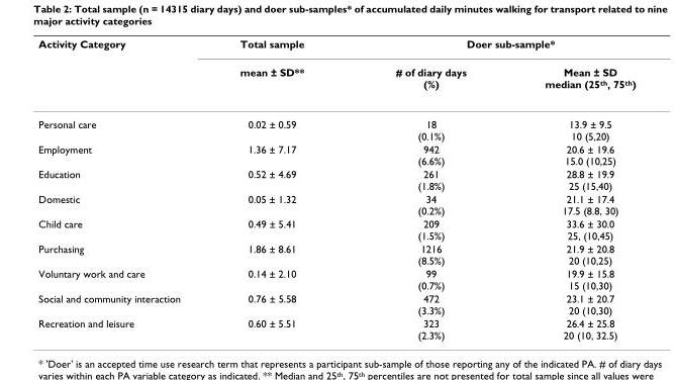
<table><thead><tr><td rowspan="2">Activity Category</td><td rowspan="2">Total sample mean ± SD**</td><td colspan="2">Doer sub-sample*</td></tr><tr><td># of diary days (%)</td><td>Mean ± SD median (25<sup>th</sup>, 75<sup>th</sup>)</td></tr></thead><tbody><tr><td>Personal care</td><td>0.02 ± 0.59</td><td>18 (0.1%)</td><td>13.9 ± 9.5 10 (5,20)</td></tr><tr><td>Employment</td><td>1.36 ± 7.17</td><td>942 (6.6%)</td><td>20.6 ± 19.6 15.0 (10,25)</td></tr><tr><td>Education</td><td>0.52 ± 4.69</td><td>261 (1.8%)</td><td>28.8 ± 19.9 25 (15,40)</td></tr><tr><td>Domestic</td><td>0.05 ± 1.32</td><td>34 (0.2%)</td><td>21.1 ± 17.4 17.5 (8.8, 30)</td></tr><tr><td>Child care</td><td>0.49 ± 5.41</td><td>209 (1.5%)</td><td>33.6 ± 30.0 25, (10,45)</td></tr><tr><td>Purchasing</td><td>1.86 ± 8.61</td><td>1216 (8.5%)</td><td>21.9 ± 20.8 20 (10,25)</td></tr><tr><td>Voluntary work and care</td><td>0.14 ± 2.10</td><td>99 (0.7%)</td><td>19.9 ± 15.8 15 (10,30)</td></tr><tr><td>Social and community interaction</td><td>0.76 ± 5.58</td><td>472 (3.3%)</td><td>23.1 ± 20.7 20 (10,30)</td></tr><tr><td>Recreation and leisure</td><td>0.60 ± 5.51</td><td>323 (2.3%)</td><td>26.4 ± 25.8 20 (10, 32.5)</td></tr></tbody></table>